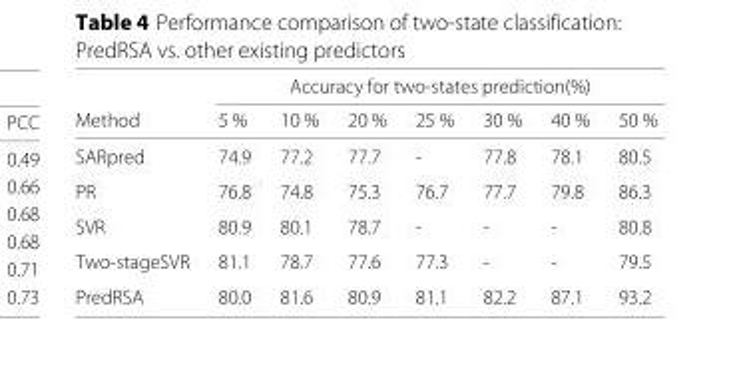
<table><thead><tr><td rowspan="2">Method</td><td colspan="7">Accuracy for two-states prediction(%)</td></tr><tr><td>5 %</td><td>10 %</td><td>20 %</td><td>25 %</td><td>30 %</td><td>40 %</td><td>50 %</td></tr></thead><tbody><tr><td>SARpred</td><td>74.9</td><td>77.2</td><td>77.7</td><td>-</td><td>77.8</td><td>78.1</td><td>80.5</td></tr><tr><td>PR</td><td>76.8</td><td>74.8</td><td>75.3</td><td>76.7</td><td>77.7</td><td>79.8</td><td>86.3</td></tr><tr><td>SVR</td><td>80.9</td><td>80.1</td><td>78.7</td><td>-</td><td>-</td><td>-</td><td>80.8</td></tr><tr><td>Two-stageSVR</td><td>81.1</td><td>78.7</td><td>77.6</td><td>77.3</td><td>-</td><td>-</td><td>79.5</td></tr><tr><td>PredRSA</td><td>80.0</td><td>81.6</td><td>80.9</td><td>81.1</td><td>82.2</td><td>87.1</td><td>93.2</td></tr></tbody></table>